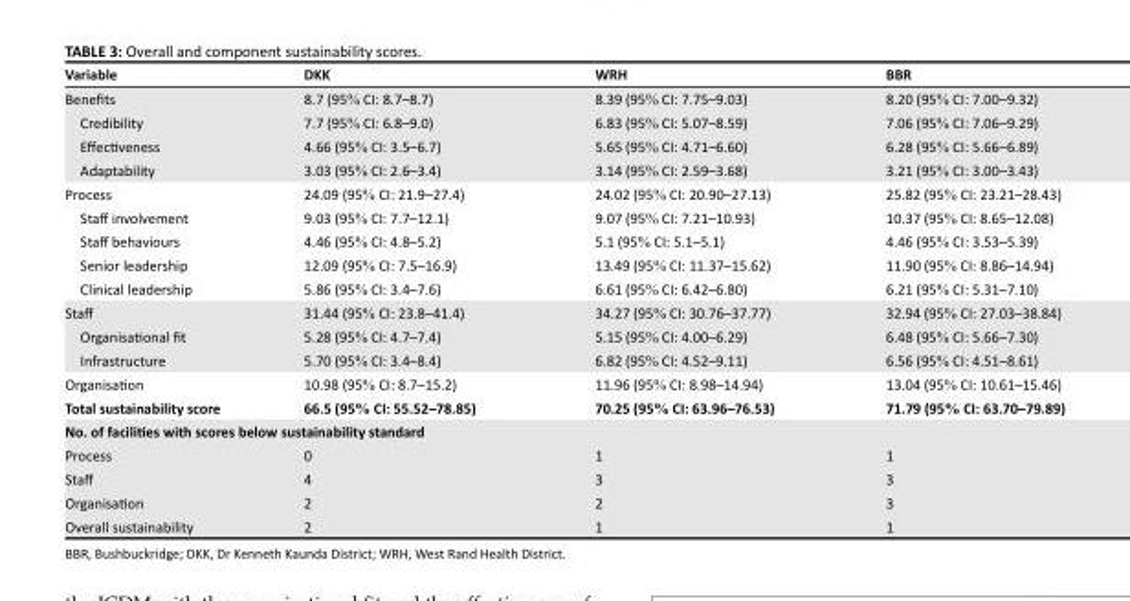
<table><thead><tr><td>Variable</td><td>DKK</td><td>WRH</td><td>BBR</td></tr></thead><tbody><tr><td>Benefits</td><td>8.7 (95% CI: 8.7–8.7)</td><td>8.39 (95% CI: 7.75–9.03)</td><td>8.20 (95% CI: 7.00–9.32)</td></tr><tr><td>Credibility</td><td>7.7 (95% CI: 6.8–9.0)</td><td>6.83 (95% CI: 5.07–8.59)</td><td>7.06 (95% CI: 7.06–9.29)</td></tr><tr><td>Effectiveness</td><td>4.66 (95% CI: 3.5–6.7)</td><td>5.65 (95% CI: 4.71–6.60)</td><td>6.28 (95% CI: 5.66–6.89)</td></tr><tr><td>Adaptability</td><td>3.03 (95% CI: 2.6–3.4)</td><td>3.14 (95% CI: 2.59–3.68)</td><td>3.21 (95% CI: 3.00–3.43)</td></tr><tr><td>Process</td><td>24.09 (95% CI: 21.9–27.4)</td><td>24.02 (95% CI: 20.90–27.13)</td><td>25.82 (95% CI: 23.21–28.43)</td></tr><tr><td>Staff involvement</td><td>9.03 (95% CI: 7.7–12.1)</td><td>9.07 (95% CI: 7.21–10.93)</td><td>10.37 (95% CI: 8.65–12.08)</td></tr><tr><td>Staff behaviours</td><td>4.46 (95% CI: 4.8–5.2)</td><td>5.1 (95% CI: 5.1–5.1)</td><td>4.46 (95% CI: 3.53–5.39)</td></tr><tr><td>Senior leadership</td><td>12.09 (95% CI: 7.5–16.9)</td><td>13.49 (95% CI: 11.37–15.62)</td><td>11.90 (95% CI: 8.86–14.94)</td></tr><tr><td>Clinical leadership</td><td>5.86 (95% CI: 3.4–7.6)</td><td>6.61 (95% CI: 6.42–6.80)</td><td>6.21 (95% CI: 5.31–7.10)</td></tr><tr><td>Staff</td><td>31.44 (95% CI: 23.8–41.4)</td><td>34.27 (95% CI: 30.76–37.77)</td><td>32.94 (95% CI: 27.03–38.84)</td></tr><tr><td>Organisational fit</td><td>5.28 (95% CI: 4.7–7.4)</td><td>5.15 (95% CI: 4.00–6.29)</td><td>6.48 (95% CI: 5.66–7.30)</td></tr><tr><td>Infrastructure</td><td>5.70 (95% CI: 3.4–8.4)</td><td>6.82 (95% CI: 4.52–9.11)</td><td>6.56 (95% CI: 4.51–8.61)</td></tr><tr><td>Organisation</td><td>10.98 (95% CI: 8.7–15.2)</td><td>11.96 (95% CI: 8.98–14.94)</td><td>13.04 (95% CI: 10.61–15.46)</td></tr><tr><td>Total sustainability score</td><td>66.5 (95% CI: 55.52–78.85)</td><td>70.25 (95% CI: 63.96–76.53)</td><td>71.79 (95% CI: 63.70–79.89)</td></tr><tr><td colspan="4">No. of facilities with scores below sustainability standard</td></tr><tr><td>Process</td><td>0</td><td>1</td><td>1</td></tr><tr><td>Staff</td><td>4</td><td>3</td><td>3</td></tr><tr><td>Organisation</td><td>2</td><td>2</td><td>3</td></tr><tr><td>Overall sustainability</td><td>2</td><td>1</td><td>1</td></tr></tbody></table>